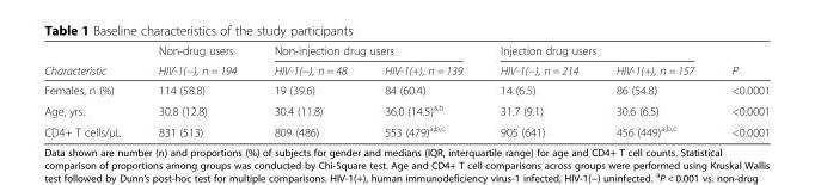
<table><thead><tr><td rowspan="2">Characteristic</td><td rowspan="2">Non-drug users HIV-1(−), n = 194</td><td colspan="2">Non-injection drug users</td><td colspan="2">Injection drug users</td><td rowspan="2">P</td></tr><tr><td>HIV-1(−), n = 48</td><td>HIV-1(+), n = 139</td><td>HIV-1(−), n = 214</td><td>HIV-1(+), n = 157</td></tr></thead><tbody><tr><td>Females, n (%)</td><td>114 (58.8)</td><td>19 (39.6)</td><td>84 (60.4)</td><td>14 (6.5)</td><td>86 (54.8)</td><td>&lt;0.0001</td></tr><tr><td>Age, yrs.</td><td>30.8 (12.8)</td><td>30.4 (11.8)</td><td>36.0 (14.5)<sup>a,b</sup></td><td>31.7 (9.1)</td><td>30.6 (6.5)</td><td>&lt;0.0001</td></tr><tr><td>CD4+ T cells/μL</td><td>831 (513)</td><td>809 (486)</td><td>553 (479)<sup>a,b,c</sup></td><td>905 (641)</td><td>456 (449)<sup>a,b,c</sup></td><td>&lt;0.0001</td></tr></tbody></table>